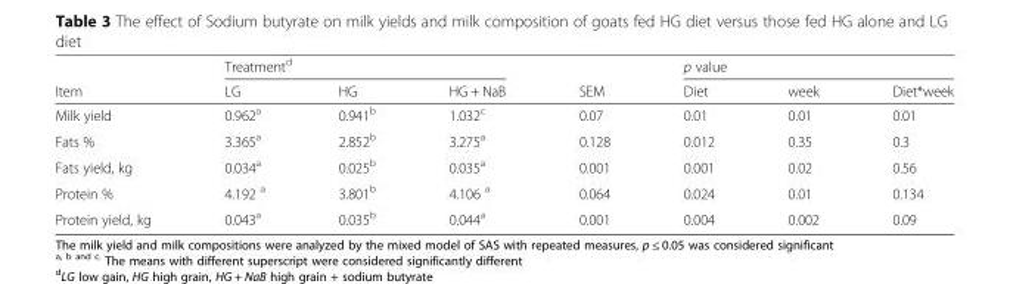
<table><thead><tr><td rowspan="2">Item</td><td colspan="3">Treatment<sup>d</sup></td><td rowspan="2">SEM</td><td colspan="3">p value</td></tr><tr><td>LG</td><td>HG</td><td>HG + NaB</td><td>Diet</td><td>week</td><td>Diet*week</td></tr></thead><tbody><tr><td>Milk yield</td><td>0.962<sup>a</sup></td><td>0.941<sup>b</sup></td><td>1.032<sup>c</sup></td><td>0.07</td><td>0.01</td><td>0.01</td><td>0.01</td></tr><tr><td>Fats %</td><td>3.365<sup>a</sup></td><td>2.852<sup>b</sup></td><td>3.275<sup>a</sup></td><td>0.128</td><td>0.012</td><td>0.35</td><td>0.3</td></tr><tr><td>Fats yield, kg</td><td>0.034<sup>a</sup></td><td>0.025<sup>b</sup></td><td>0.035<sup>a</sup></td><td>0.001</td><td>0.001</td><td>0.02</td><td>0.56</td></tr><tr><td>Protein %</td><td>4.192 <sup>a</sup></td><td>3.801<sup>b</sup></td><td>4.106 <sup>a</sup></td><td>0.064</td><td>0.024</td><td>0.01</td><td>0.134</td></tr><tr><td>Protein yield, kg</td><td>0.043<sup>a</sup></td><td>0.035<sup>b</sup></td><td>0.044<sup>a</sup></td><td>0.001</td><td>0.004</td><td>0.002</td><td>0.09</td></tr></tbody></table>